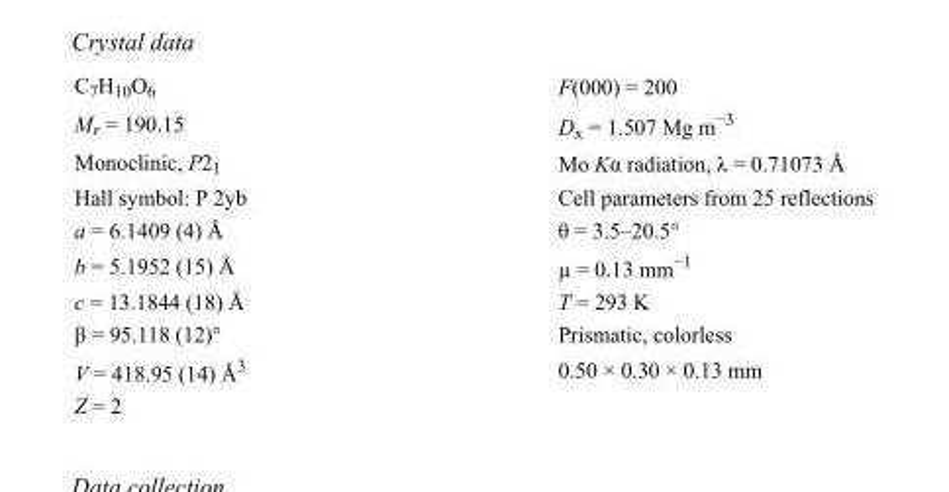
<table><tbody><tr><td>C<sub>7</sub>H<sub>10</sub>O<sub>6</sub></td><td>F(000) = 200</td></tr><tr><td>M<sub>r</sub> = 190.15</td><td>D<sub>x</sub> = 1.507 Mg m<sup>−3</sup></td></tr><tr><td>Monoclinic, P2<sub>1</sub></td><td>Mo Kα radiation, λ = 0.71073 Å</td></tr><tr><td>Hall symbol: P 2yb</td><td>Cell parameters from 25 reflections</td></tr><tr><td>a = 6.1409 (4) Å</td><td>θ = 3.5–20.5°</td></tr><tr><td>b = 5.1952 (15) Å</td><td>µ = 0.13 mm<sup>−1</sup></td></tr><tr><td>c = 13.1844 (18) Å</td><td>T = 293 K</td></tr><tr><td>β = 95.118 (12)°</td><td>Prismatic, colorless</td></tr><tr><td>V = 418.95 (14) Å<sup>3</sup></td><td>0.50 × 0.30 × 0.13 mm</td></tr><tr><td>Z = 2</td><td></td></tr></tbody></table>